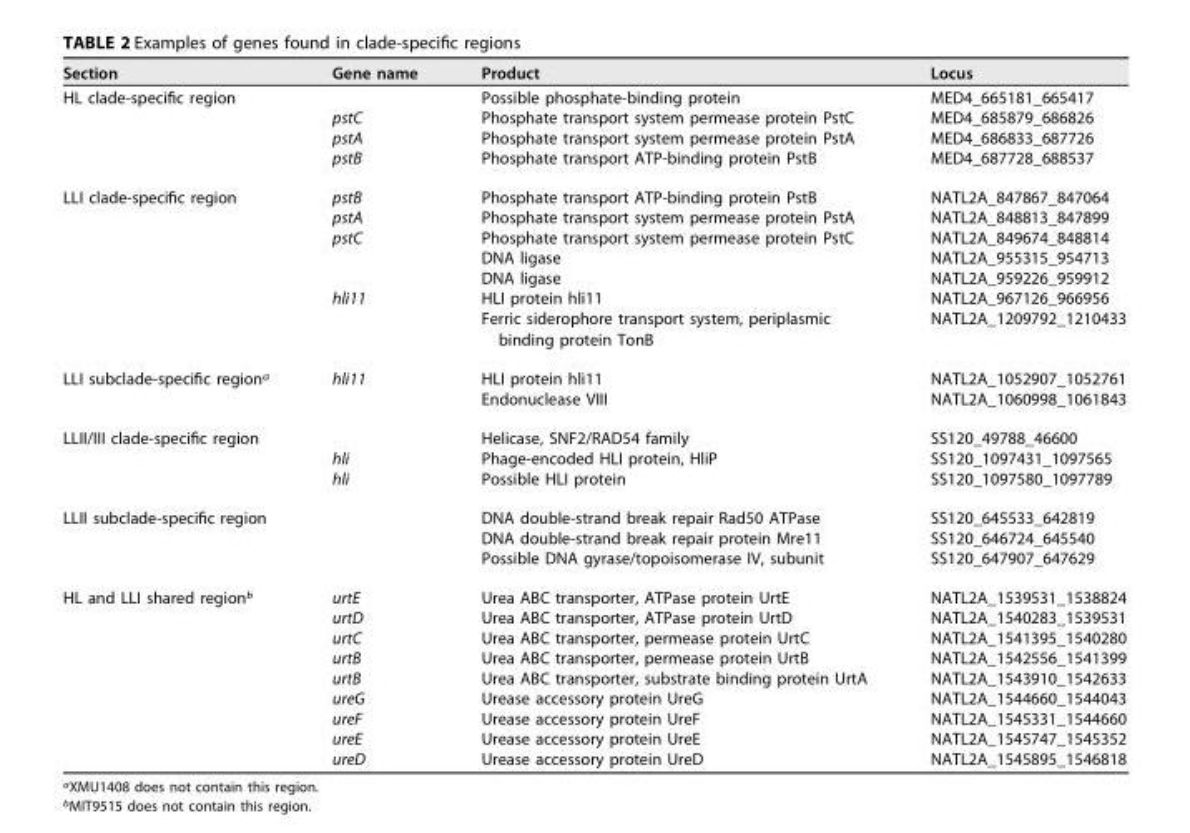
<table><thead><tr><td>Section</td><td>Gene name</td><td>Product</td><td>Locus</td></tr></thead><tbody><tr><td rowspan="4">HL clade-specific region</td><td></td><td>Possible phosphate-binding protein</td><td>MED4_665181_665417</td></tr><tr><td>pstC</td><td>Phosphate transport system permease protein PstC</td><td>MED4_685879_686826</td></tr><tr><td>pstA</td><td>Phosphate transport system permease protein PstA</td><td>MED4_686833_687726</td></tr><tr><td>pstB</td><td>Phosphate transport ATP-binding protein PstB</td><td>MED4_687728_688537</td></tr><tr><td rowspan="7">LLI clade-specific region</td><td>pstB</td><td>Phosphate transport ATP-binding protein PstB</td><td>NATL2A_847867_847064</td></tr><tr><td>pstA</td><td>Phosphate transport system permease protein PstA</td><td>NATL2A_848813_847899</td></tr><tr><td>pstC</td><td>Phosphate transport system permease protein PstC</td><td>NATL2A_849674_848814</td></tr><tr><td></td><td>DNA ligase</td><td>NATL2A_955315_954713</td></tr><tr><td></td><td>DNA ligase</td><td>NATL2A_959226_959912</td></tr><tr><td>hli11</td><td>HLI protein hli11</td><td>NATL2A_967126_966956</td></tr><tr><td></td><td>Ferric siderophore transport system, periplasmic binding protein TonB</td><td>NATL2A_1209792_1210433</td></tr><tr><td rowspan="2">LLI subclade-specific region<sup>a</sup></td><td>hli11</td><td>HLI protein hli11</td><td>NATL2A_1052907_1052761</td></tr><tr><td></td><td>Endonuclease VIII</td><td>NATL2A_1060998_1061843</td></tr><tr><td rowspan="3">LLII/III clade-specific region</td><td></td><td>Helicase, SNF2/RAD54 family</td><td>SS120_49788_46600</td></tr><tr><td>hli</td><td>Phage-encoded HLI protein, HliP</td><td>SS120_1097431_1097565</td></tr><tr><td>hli</td><td>Possible HLI protein</td><td>SS120_1097580_1097789</td></tr><tr><td rowspan="3">LLII subclade-specific region</td><td></td><td>DNA double-strand break repair Rad50 ATPase</td><td>SS120_645533_642819</td></tr><tr><td></td><td>DNA double-strand break repair protein Mre11</td><td>SS120_646724_645540</td></tr><tr><td></td><td>Possible DNA gyrase/topoisomerase IV, subunit</td><td>SS120_647907_647629</td></tr><tr><td rowspan="9">HL and LLI shared region<sup>b</sup></td><td>urtE</td><td>Urea ABC transporter, ATPase protein UrtE</td><td>NATL2A_1539531_1538824</td></tr><tr><td>urtD</td><td>Urea ABC transporter, ATPase protein UrtD</td><td>NATL2A_1540283_1539531</td></tr><tr><td>urtC</td><td>Urea ABC transporter, permease protein UrtC</td><td>NATL2A_1541395_1540280</td></tr><tr><td>urtB</td><td>Urea ABC transporter, permease protein UrtB</td><td>NATL2A_1542556_1541399</td></tr><tr><td>urtB</td><td>Urea ABC transporter, substrate binding protein UrtA</td><td>NATL2A_1543910_1542633</td></tr><tr><td>ureG</td><td>Urease accessory protein UreG</td><td>NATL2A_1544660_1544043</td></tr><tr><td>ureF</td><td>Urease accessory protein UreF</td><td>NATL2A_1545331_1544660</td></tr><tr><td>ureE</td><td>Urease accessory protein UreE</td><td>NATL2A_1545747_1545352</td></tr><tr><td>ureD</td><td>Urease accessory protein UreD</td><td>NATL2A_1545895_1546818</td></tr></tbody></table>